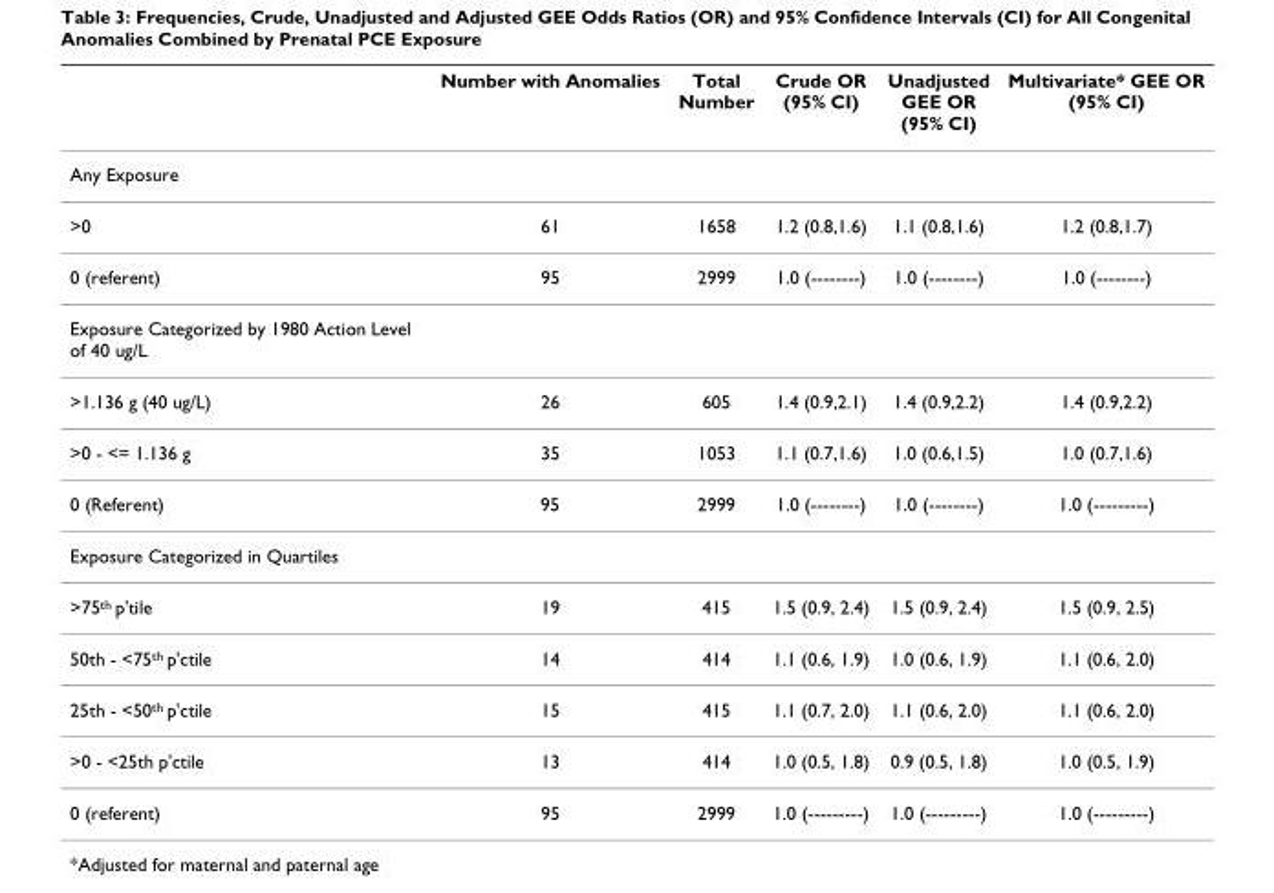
<table><thead><tr><td></td><td>Number with Anomalies</td><td>Total Number</td><td>Crude OR (95% CI)</td><td>Unadjusted GEE OR (95% CI)</td><td>Multivariate* GEE OR (95% CI)</td></tr></thead><tbody><tr><td colspan="6">Any Exposure</td></tr><tr><td>&gt;0</td><td>61</td><td>1658</td><td>1.2 (0.8,1.6)</td><td>1.1 (0.8,1.6)</td><td>1.2 (0.8,1.7)</td></tr><tr><td>0 (referent)</td><td>95</td><td>2999</td><td>1.0 (--------)</td><td>1.0 (--------)</td><td>1.0 (--------)</td></tr><tr><td colspan="6">Exposure Categorized by 1980 Action Level of 40 ug/L</td></tr><tr><td>&gt;1.136 g (40 ug/L)</td><td>26</td><td>605</td><td>1.4 (0.9,2.1)</td><td>1.4 (0.9,2.2)</td><td>1.4 (0.9,2.2)</td></tr><tr><td>&gt;0 - &lt;= 1.136 g</td><td>35</td><td>1053</td><td>1.1 (0.7,1.6)</td><td>1.0 (0.6,1.5)</td><td>1.0 (0.7,1.6)</td></tr><tr><td>0 (Referent)</td><td>95</td><td>2999</td><td>1.0 (--------)</td><td>1.0 (--------)</td><td>1.0 (---------)</td></tr><tr><td colspan="6">Exposure Categorized in Quartiles</td></tr><tr><td>&gt;75<sup>th</sup> p&#x27;tile</td><td>19</td><td>415</td><td>1.5 (0.9, 2.4)</td><td>1.5 (0.9, 2.4)</td><td>1.5 (0.9, 2.5)</td></tr><tr><td>50th - &lt;75<sup>th</sup> p&#x27;ctile</td><td>14</td><td>414</td><td>1.1 (0.6, 1.9)</td><td>1.0 (0.6, 1.9)</td><td>1.1 (0.6, 2.0)</td></tr><tr><td>25th - &lt;50<sup>th</sup> p&#x27;ctile</td><td>15</td><td>415</td><td>1.1 (0.7, 2.0)</td><td>1.1 (0.6, 2.0)</td><td>1.1 (0.6, 2.0)</td></tr><tr><td>&gt;0 - &lt;25th p&#x27;ctile</td><td>13</td><td>414</td><td>1.0 (0.5, 1.8)</td><td>0.9 (0.5, 1.8)</td><td>1.0 (0.5, 1.9)</td></tr><tr><td>0 (referent)</td><td>95</td><td>2999</td><td>1.0 (---------)</td><td>1.0 (---------)</td><td>1.0 (---------)</td></tr></tbody></table>